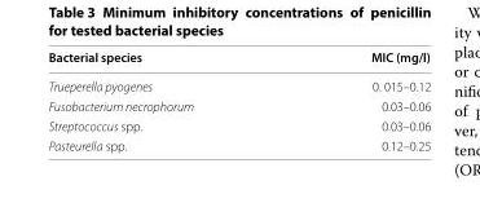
<table><thead><tr><td>Bacterial species</td><td>MIC (mg/l)</td></tr></thead><tbody><tr><td>Trueperella pyogenes</td><td>0. 015–0.12</td></tr><tr><td>Fusobacterium necrophorum</td><td>0.03–0.06</td></tr><tr><td>Streptococcus spp.</td><td>0.03–0.06</td></tr><tr><td>Pasteurella spp.</td><td>0.12–0.25</td></tr></tbody></table>